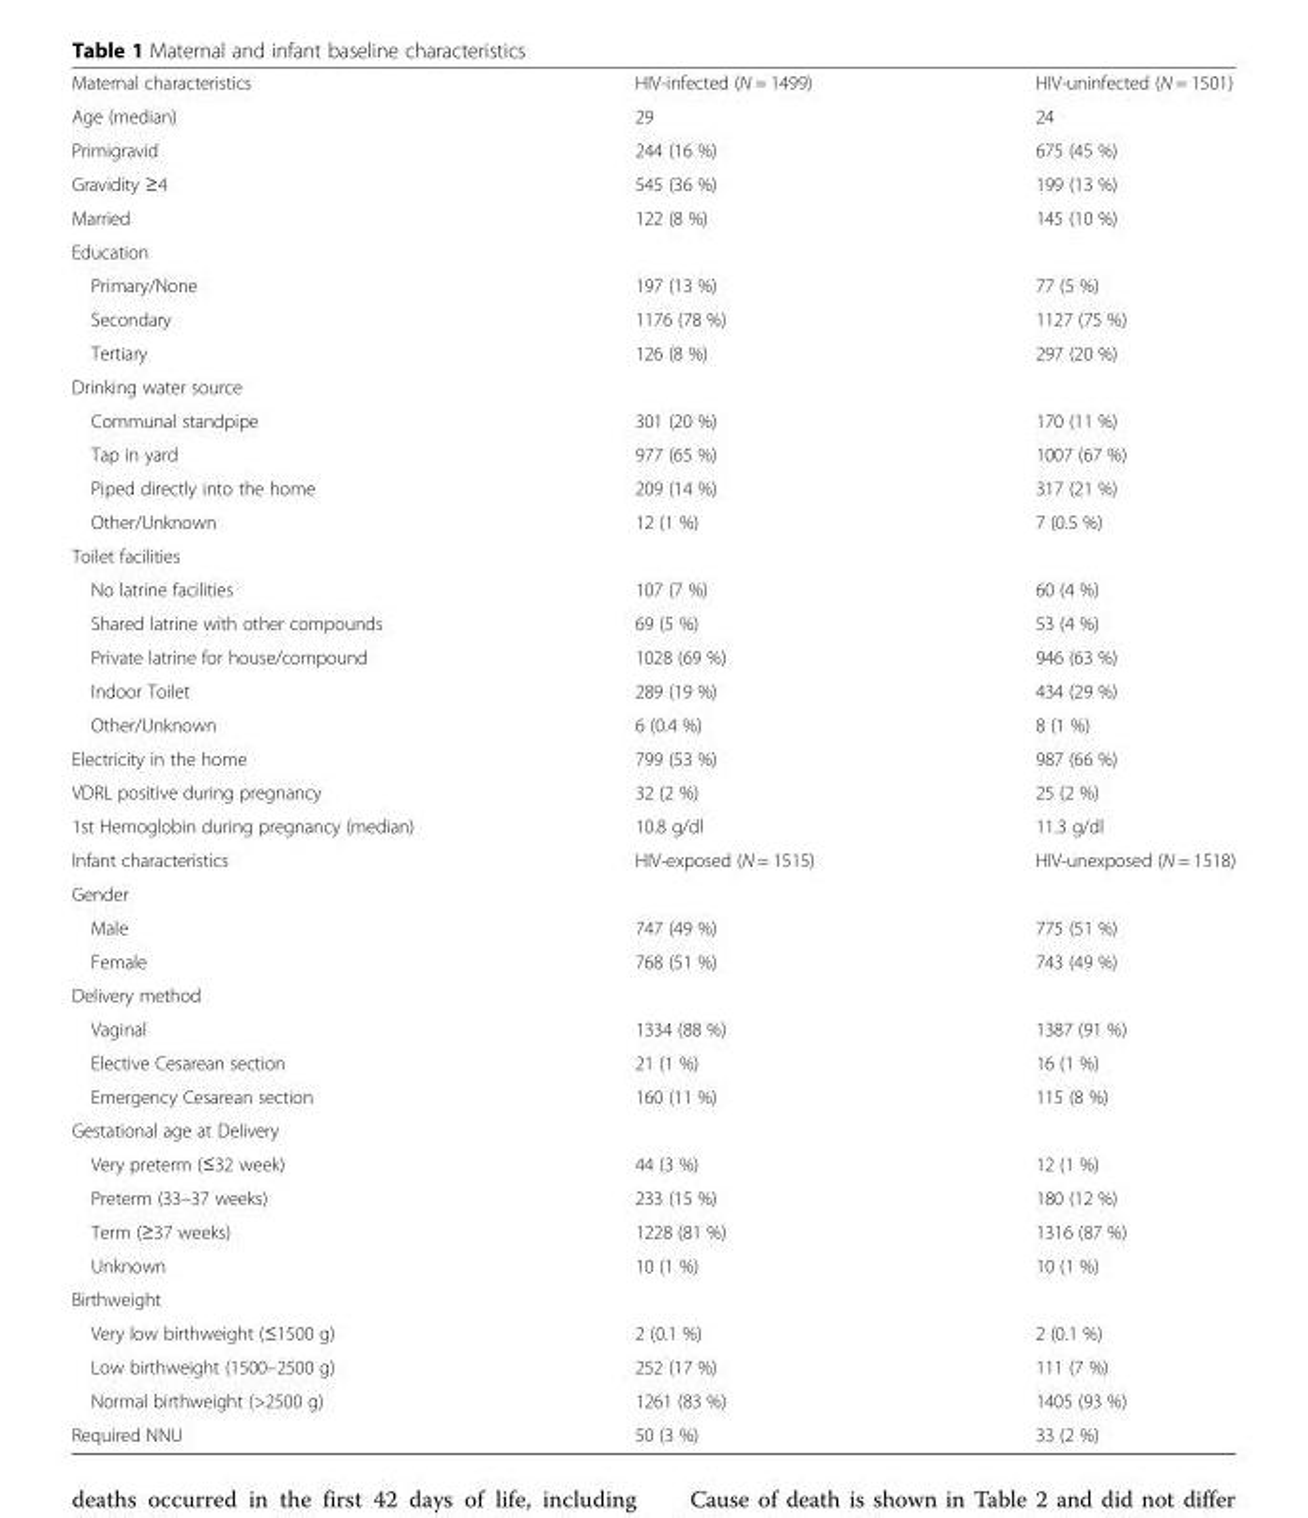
<table><tbody><tr><td>Maternal characteristics</td><td>HIV-infected (N = 1499)</td><td>HIV-uninfected (N = 1501)</td></tr><tr><td>Age (median)</td><td>29</td><td>24</td></tr><tr><td>Primigravid</td><td>244 (16 %)</td><td>675 (45 %)</td></tr><tr><td>Gravidity ≥4</td><td>545 (36 %)</td><td>199 (13 %)</td></tr><tr><td>Married</td><td>122 (8 %)</td><td>145 (10 %)</td></tr><tr><td colspan="3">Education</td></tr><tr><td>Primary/None</td><td>197 (13 %)</td><td>77 (5 %)</td></tr><tr><td>Secondary</td><td>1176 (78 %)</td><td>1127 (75 %)</td></tr><tr><td>Tertiary</td><td>126 (8 %)</td><td>297 (20 %)</td></tr><tr><td colspan="3">Drinking water source</td></tr><tr><td>Communal standpipe</td><td>301 (20 %)</td><td>170 (11 %)</td></tr><tr><td>Tap in yard</td><td>977 (65 %)</td><td>1007 (67 %)</td></tr><tr><td>Piped directly into the home</td><td>209 (14 %)</td><td>317 (21 %)</td></tr><tr><td>Other/Unknown</td><td>12 (1 %)</td><td>7 (0.5 %)</td></tr><tr><td colspan="3">Toilet facilities</td></tr><tr><td>No latrine facilities</td><td>107 (7 %)</td><td>60 (4 %)</td></tr><tr><td>Shared latrine with other compounds</td><td>69 (5 %)</td><td>53 (4 %)</td></tr><tr><td>Private latrine for house/compound</td><td>1028 (69 %)</td><td>946 (63 %)</td></tr><tr><td>Indoor Toilet</td><td>289 (19 %)</td><td>434 (29 %)</td></tr><tr><td>Other/Unknown</td><td>6 (0.4 %)</td><td>8 (1 %)</td></tr><tr><td>Electricity in the home</td><td>799 (53 %)</td><td>987 (66 %)</td></tr><tr><td>VDRL positive during pregnancy</td><td>32 (2 %)</td><td>25 (2 %)</td></tr><tr><td>1st Hemoglobin during pregnancy (median)</td><td>10.8 g/dl</td><td>11.3 g/dl</td></tr><tr><td>Infant characteristics</td><td>HIV-exposed (N = 1515)</td><td>HIV-unexposed (N = 1518)</td></tr><tr><td colspan="3">Gender</td></tr><tr><td>Male</td><td>747 (49 %)</td><td>775 (51 %)</td></tr><tr><td>Female</td><td>768 (51 %)</td><td>743 (49 %)</td></tr><tr><td colspan="3">Delivery method</td></tr><tr><td>Vaginal</td><td>1334 (88 %)</td><td>1387 (91 %)</td></tr><tr><td>Elective Cesarean section</td><td>21 (1 %)</td><td>16 (1 %)</td></tr><tr><td>Emergency Cesarean section</td><td>160 (11 %)</td><td>115 (8 %)</td></tr><tr><td colspan="3">Gestational age at Delivery</td></tr><tr><td>Very preterm (≤32 week)</td><td>44 (3 %)</td><td>12 (1 %)</td></tr><tr><td>Preterm (33–37 weeks)</td><td>233 (15 %)</td><td>180 (12 %)</td></tr><tr><td>Term (≥37 weeks)</td><td>1228 (81 %)</td><td>1316 (87 %)</td></tr><tr><td>Unknown</td><td>10 (1 %)</td><td>10 (1 %)</td></tr><tr><td colspan="3">Birthweight</td></tr><tr><td>Very low birthweight (≤1500 g)</td><td>2 (0.1 %)</td><td>2 (0.1 %)</td></tr><tr><td>Low birthweight (1500–2500 g)</td><td>252 (17 %)</td><td>111 (7 %)</td></tr><tr><td>Normal birthweight (&gt;2500 g)</td><td>1261 (83 %)</td><td>1405 (93 %)</td></tr><tr><td>Required NNU</td><td>50 (3 %)</td><td>33 (2 %)</td></tr></tbody></table>